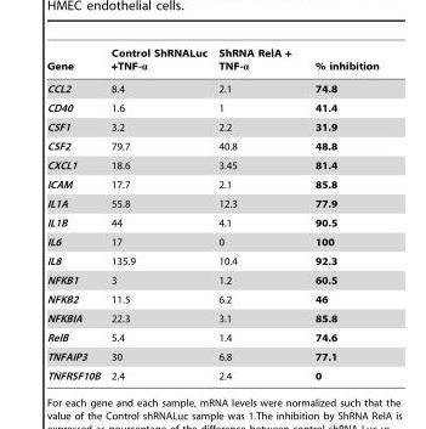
<table><thead><tr><td>Gene</td><td>Control ShRNALuc +TNF-α</td><td>ShRNA RelA + TNF-α</td><td>% inhibition</td></tr></thead><tbody><tr><td>CCL2</td><td>8.4</td><td>2.1</td><td>74.8</td></tr><tr><td>CD40</td><td>1.6</td><td>1</td><td>41.4</td></tr><tr><td>CSF1</td><td>3.2</td><td>2.2</td><td>31.9</td></tr><tr><td>CSF2</td><td>79.7</td><td>40.8</td><td>48.8</td></tr><tr><td>CXCL1</td><td>18.6</td><td>3.45</td><td>81.4</td></tr><tr><td>ICAM</td><td>17.7</td><td>2.1</td><td>85.8</td></tr><tr><td>IL1A</td><td>55.8</td><td>12.3</td><td>77.9</td></tr><tr><td>IL1B</td><td>44</td><td>4.1</td><td>90.5</td></tr><tr><td>IL6</td><td>17</td><td>0</td><td>100</td></tr><tr><td>IL8</td><td>135.9</td><td>10.4</td><td>92.3</td></tr><tr><td>NFKB1</td><td>3</td><td>1.2</td><td>60.5</td></tr><tr><td>NFKB2</td><td>11.5</td><td>6.2</td><td>46</td></tr><tr><td>NFKBIA</td><td>22.3</td><td>3.1</td><td>85.8</td></tr><tr><td>RelB</td><td>5.4</td><td>1.4</td><td>74.6</td></tr><tr><td>TNFAIP3</td><td>30</td><td>6.8</td><td>77.1</td></tr><tr><td>TNFRSF10B</td><td>2.4</td><td>2.4</td><td>0</td></tr></tbody></table>